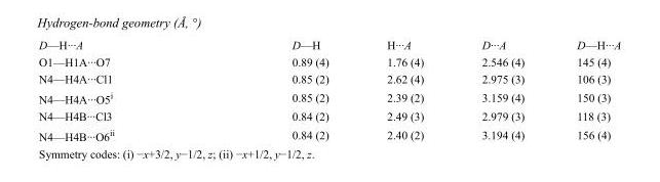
<table><tbody><tr><td>D—H···A</td><td>D—H</td><td>H···A</td><td>D···A</td><td>D—H···A</td></tr><tr><td>O1—H1A···O7</td><td>0.89 (4)</td><td>1.76 (4)</td><td>2.546 (4)</td><td>145 (4)</td></tr><tr><td>N4—H4A···Cl1</td><td>0.85 (2)</td><td>2.62 (4)</td><td>2.975 (3)</td><td>106 (3)</td></tr><tr><td>N4—H4A···O5<sup>i</sup></td><td>0.85 (2)</td><td>2.39 (2)</td><td>3.159 (4)</td><td>150 (3)</td></tr><tr><td>N4—H4B···Cl3</td><td>0.84 (2)</td><td>2.49 (3)</td><td>2.979 (3)</td><td>118 (3)</td></tr><tr><td>N4—H4B···O6<sup>ii</sup></td><td>0.84 (2)</td><td>2.40 (2)</td><td>3.194 (4)</td><td>156 (4)</td></tr></tbody></table>